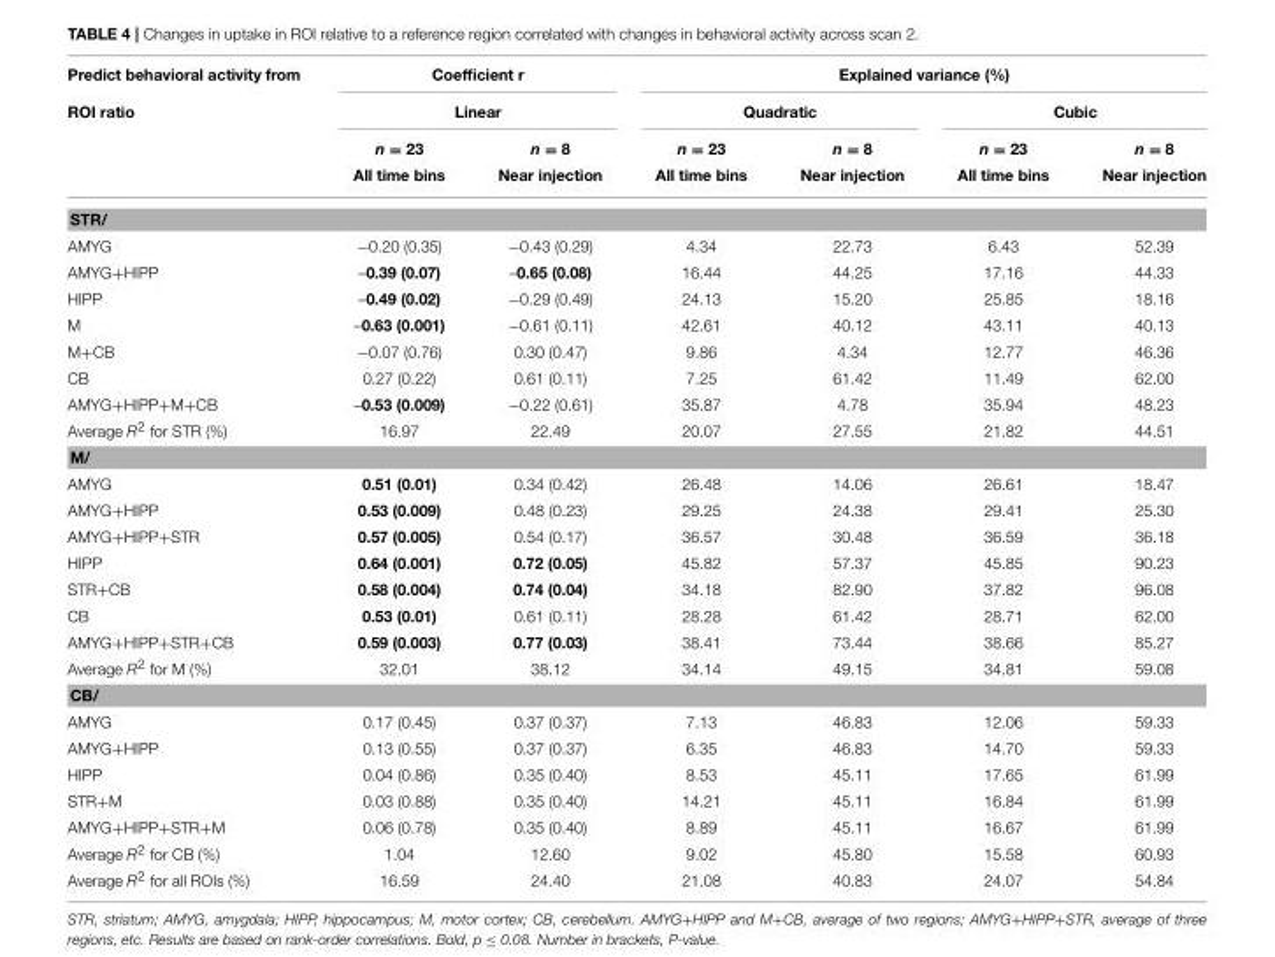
<table><thead><tr><td rowspan="4">Predict behavioral activity from ROI ratio</td><td rowspan="2" colspan="2">Coefficient r Linear</td><td colspan="4">Explained variance (%)</td></tr><tr><td colspan="2">Quadratic</td><td colspan="2">Cubic</td></tr><tr><td rowspan="2">n = 23 All time bins</td><td rowspan="2">n = 8 Near injection</td><td rowspan="2">n = 23 All time bins</td><td rowspan="2">n = 8 Near injection</td><td rowspan="2">n = 23 All time bins</td><td rowspan="2">n = 8 Near injection</td></tr><tr></tr></thead><tbody><tr><td colspan="7">STR/</td></tr><tr><td>AMYG</td><td>−0.20 (0.35)</td><td>−0.43 (0.29)</td><td>4.34</td><td>22.73</td><td>6.43</td><td>52.39</td></tr><tr><td>AMYG+HIPP</td><td>–0.39 (0.07)</td><td>–0.65 (0.08)</td><td>16.44</td><td>44.25</td><td>17.16</td><td>44.33</td></tr><tr><td>HIPP</td><td>–0.49 (0.02)</td><td>−0.29 (0.49)</td><td>24.13</td><td>15.20</td><td>25.85</td><td>18.16</td></tr><tr><td>M</td><td>–0.63 (0.001)</td><td>−0.61 (0.11)</td><td>42.61</td><td>40.12</td><td>43.11</td><td>40.13</td></tr><tr><td>M+CB</td><td>−0.07 (0.76)</td><td>0.30 (0.47)</td><td>9.86</td><td>4.34</td><td>12.77</td><td>46.36</td></tr><tr><td>CB</td><td>0.27 (0.22)</td><td>0.61 (0.11)</td><td>7.25</td><td>61.42</td><td>11.49</td><td>62.00</td></tr><tr><td>AMYG+HIPP+M+CB</td><td>–0.53 (0.009)</td><td>−0.22 (0.61)</td><td>35.87</td><td>4.78</td><td>35.94</td><td>48.23</td></tr><tr><td>Average R<sup>2</sup> for STR (%)</td><td>16.97</td><td>22.49</td><td>20.07</td><td>27.55</td><td>21.82</td><td>44.51</td></tr><tr><td colspan="7">M/</td></tr><tr><td>AMYG</td><td>0.51 (0.01)</td><td>0.34 (0.42)</td><td>26.48</td><td>14.06</td><td>26.61</td><td>18.47</td></tr><tr><td>AMYG+HIPP</td><td>0.53 (0.009)</td><td>0.48 (0.23)</td><td>29.25</td><td>24.38</td><td>29.41</td><td>25.30</td></tr><tr><td>AMYG+HIPP+STR</td><td>0.57 (0.005)</td><td>0.54 (0.17)</td><td>36.57</td><td>30.48</td><td>36.59</td><td>36.18</td></tr><tr><td>HIPP</td><td>0.64 (0.001)</td><td>0.72 (0.05)</td><td>45.82</td><td>57.37</td><td>45.85</td><td>90.23</td></tr><tr><td>STR+CB</td><td>0.58 (0.004)</td><td>0.74 (0.04)</td><td>34.18</td><td>82.90</td><td>37.82</td><td>96.08</td></tr><tr><td>CB</td><td>0.53 (0.01)</td><td>0.61 (0.11)</td><td>28.28</td><td>61.42</td><td>28.71</td><td>62.00</td></tr><tr><td>AMYG+HIPP+STR+CB</td><td>0.59 (0.003)</td><td>0.77 (0.03)</td><td>38.41</td><td>73.44</td><td>38.66</td><td>85.27</td></tr><tr><td>Average R<sup>2</sup> for M (%)</td><td>32.01</td><td>38.12</td><td>34.14</td><td>49.15</td><td>34.81</td><td>59.08</td></tr><tr><td colspan="7">CB/</td></tr><tr><td>AMYG</td><td>0.17 (0.45)</td><td>0.37 (0.37)</td><td>7.13</td><td>46.83</td><td>12.06</td><td>59.33</td></tr><tr><td>AMYG+HIPP</td><td>0.13 (0.55)</td><td>0.37 (0.37)</td><td>6.35</td><td>46.83</td><td>14.70</td><td>59.33</td></tr><tr><td>HIPP</td><td>0.04 (0.86)</td><td>0.35 (0.40)</td><td>8.53</td><td>45.11</td><td>17.65</td><td>61.99</td></tr><tr><td>STR+M</td><td>0.03 (0.88)</td><td>0.35 (0.40)</td><td>14.21</td><td>45.11</td><td>16.84</td><td>61.99</td></tr><tr><td>AMYG+HIPP+STR+M</td><td>0.06 (0.78)</td><td>0.35 (0.40)</td><td>8.89</td><td>45.11</td><td>16.67</td><td>61.99</td></tr><tr><td>Average R<sup>2</sup> for CB (%)</td><td>1.04</td><td>12.60</td><td>9.02</td><td>45.80</td><td>15.58</td><td>60.93</td></tr><tr><td>Average R<sup>2</sup> for all ROIs (%)</td><td>16.59</td><td>24.40</td><td>21.08</td><td>40.83</td><td>24.07</td><td>54.84</td></tr></tbody></table>